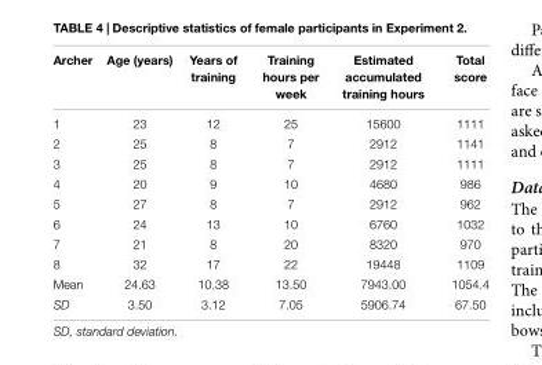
<table><thead><tr><td>Archer</td><td>Age (years)</td><td>Years of training</td><td>Training hours per week</td><td>Estimated accumulated training hours</td><td>Total score</td></tr></thead><tbody><tr><td>1</td><td>23</td><td>12</td><td>25</td><td>15600</td><td>1111</td></tr><tr><td>2</td><td>25</td><td>8</td><td>7</td><td>2912</td><td>1141</td></tr><tr><td>3</td><td>25</td><td>8</td><td>7</td><td>2912</td><td>1111</td></tr><tr><td>4</td><td>20</td><td>9</td><td>10</td><td>4680</td><td>986</td></tr><tr><td>5</td><td>27</td><td>8</td><td>7</td><td>2912</td><td>962</td></tr><tr><td>6</td><td>24</td><td>13</td><td>10</td><td>6760</td><td>1032</td></tr><tr><td>7</td><td>21</td><td>8</td><td>20</td><td>8320</td><td>970</td></tr><tr><td>8</td><td>32</td><td>17</td><td>22</td><td>19448</td><td>1109</td></tr><tr><td>Mean</td><td>24.63</td><td>10.38</td><td>13.50</td><td>7943.00</td><td>1054.4</td></tr><tr><td>SD</td><td>3.50</td><td>3.12</td><td>7.05</td><td>5906.74</td><td>67.50</td></tr></tbody></table>